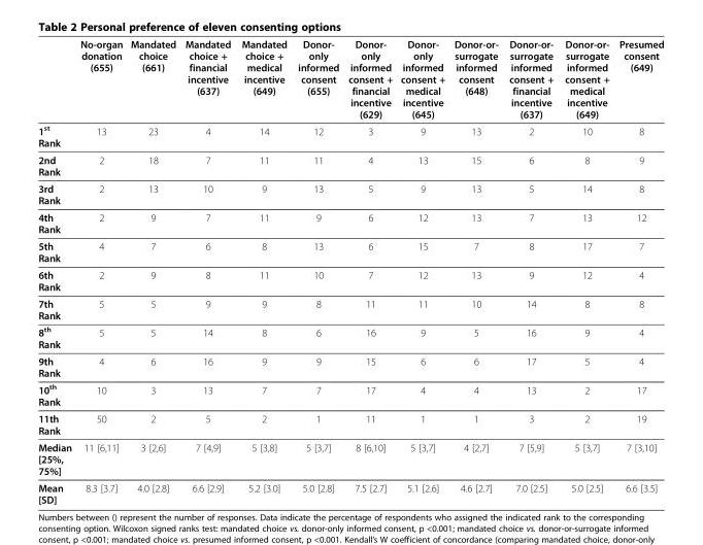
<table><thead><tr><td></td><td>No-organ donation (655)</td><td>Mandated choice (661)</td><td>Mandated choice + financial incentive (637)</td><td>Mandated choice + medical incentive (649)</td><td>Donor- only informed consent (655)</td><td>Donor- only informed consent + financial incentive (629)</td><td>Donor- only informed consent + medical incentive (645)</td><td>Donor-or- surrogate informed consent (648)</td><td>Donor-or- surrogate informed consent + financial incentive (637)</td><td>Donor-or- surrogate informed consent + medical incentive (649)</td><td>Presumed consent (649)</td></tr></thead><tbody><tr><td>1<sup>st</sup> Rank</td><td>13</td><td>23</td><td>4</td><td>14</td><td>12</td><td>3</td><td>9</td><td>13</td><td>2</td><td>10</td><td>8</td></tr><tr><td>2nd Rank</td><td>2</td><td>18</td><td>7</td><td>11</td><td>11</td><td>4</td><td>13</td><td>15</td><td>6</td><td>8</td><td>9</td></tr><tr><td>3rd Rank</td><td>2</td><td>13</td><td>10</td><td>9</td><td>13</td><td>5</td><td>9</td><td>13</td><td>5</td><td>14</td><td>8</td></tr><tr><td>4th Rank</td><td>2</td><td>9</td><td>7</td><td>11</td><td>9</td><td>6</td><td>12</td><td>13</td><td>7</td><td>13</td><td>12</td></tr><tr><td>5th Rank</td><td>4</td><td>7</td><td>6</td><td>8</td><td>13</td><td>6</td><td>15</td><td>7</td><td>8</td><td>17</td><td>7</td></tr><tr><td>6th Rank</td><td>2</td><td>9</td><td>8</td><td>11</td><td>10</td><td>7</td><td>12</td><td>13</td><td>9</td><td>12</td><td>4</td></tr><tr><td>7th Rank</td><td>5</td><td>5</td><td>9</td><td>9</td><td>8</td><td>11</td><td>11</td><td>10</td><td>14</td><td>8</td><td>8</td></tr><tr><td>8<sup>th</sup> Rank</td><td>5</td><td>5</td><td>14</td><td>8</td><td>6</td><td>16</td><td>9</td><td>5</td><td>16</td><td>9</td><td>4</td></tr><tr><td>9th Rank</td><td>4</td><td>6</td><td>16</td><td>9</td><td>9</td><td>15</td><td>6</td><td>6</td><td>17</td><td>5</td><td>4</td></tr><tr><td>10<sup>th</sup> Rank</td><td>10</td><td>3</td><td>13</td><td>7</td><td>7</td><td>17</td><td>4</td><td>4</td><td>13</td><td>2</td><td>17</td></tr><tr><td>11th Rank</td><td>50</td><td>2</td><td>5</td><td>2</td><td>1</td><td>11</td><td>1</td><td>1</td><td>3</td><td>2</td><td>19</td></tr><tr><td>Median [25%, 75%]</td><td>11 [6,11]</td><td>3 [2,6]</td><td>7 [4,9]</td><td>5 [3,8]</td><td>5 [3,7]</td><td>8 [6,10]</td><td>5 [3,7]</td><td>4 [2,7]</td><td>7 [5,9]</td><td>5 [3,7]</td><td>7 [3,10]</td></tr><tr><td>Mean [SD]</td><td>8.3 [3.7]</td><td>4.0 [2.8]</td><td>6.6 [2.9]</td><td>5.2 [3.0]</td><td>5.0 [2.8]</td><td>7.5 [2.7]</td><td>5.1 [2.6]</td><td>4.6 [2.7]</td><td>7.0 [2.5]</td><td>5.0 [2.5]</td><td>6.6 [3.5]</td></tr></tbody></table>